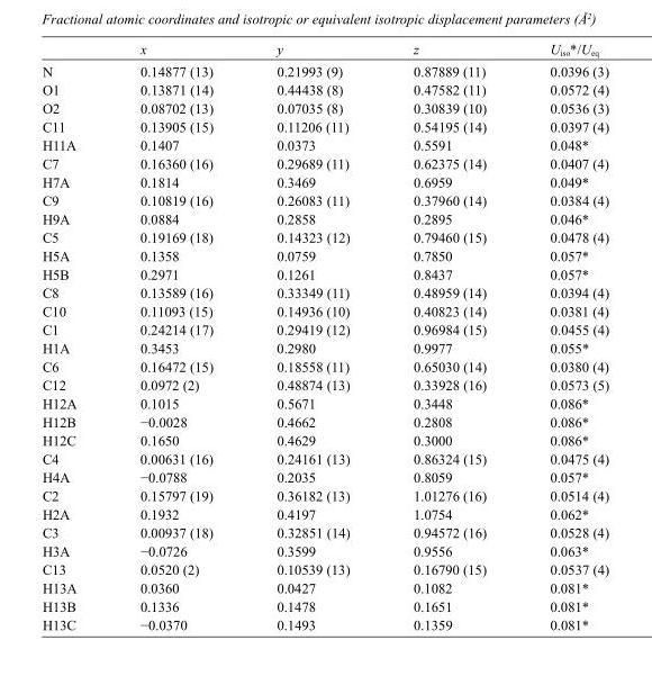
<table><thead><tr><td></td><td>x</td><td>y</td><td>z</td><td>U<sub>iso</sub>*/U<sub>eq</sub></td></tr></thead><tbody><tr><td>N</td><td>0.14877 (13)</td><td>0.21993 (9)</td><td>0.87889 (11)</td><td>0.0396 (3)</td></tr><tr><td>O1</td><td>0.13871 (14)</td><td>0.44438 (8)</td><td>0.47582 (11)</td><td>0.0572 (4)</td></tr><tr><td>O2</td><td>0.08702 (13)</td><td>0.07035 (8)</td><td>0.30839 (10)</td><td>0.0536 (3)</td></tr><tr><td>C11</td><td>0.13905 (15)</td><td>0.11206 (11)</td><td>0.54195 (14)</td><td>0.0397 (4)</td></tr><tr><td>H11A</td><td>0.1407</td><td>0.0373</td><td>0.5591</td><td>0.048*</td></tr><tr><td>C7</td><td>0.16360 (16)</td><td>0.29689 (11)</td><td>0.62375 (14)</td><td>0.0407 (4)</td></tr><tr><td>H7A</td><td>0.1814</td><td>0.3469</td><td>0.6959</td><td>0.049*</td></tr><tr><td>C9</td><td>0.10819 (16)</td><td>0.26083 (11)</td><td>0.37960 (14)</td><td>0.0384 (4)</td></tr><tr><td>H9A</td><td>0.0884</td><td>0.2858</td><td>0.2895</td><td>0.046*</td></tr><tr><td>C5</td><td>0.19169 (18)</td><td>0.14323 (12)</td><td>0.79460 (15)</td><td>0.0478 (4)</td></tr><tr><td>H5A</td><td>0.1358</td><td>0.0759</td><td>0.7850</td><td>0.057*</td></tr><tr><td>H5B</td><td>0.2971</td><td>0.1261</td><td>0.8437</td><td>0.057*</td></tr><tr><td>C8</td><td>0.13589 (16)</td><td>0.33349 (11)</td><td>0.48959 (14)</td><td>0.0394 (4)</td></tr><tr><td>C10</td><td>0.11093 (15)</td><td>0.14936 (10)</td><td>0.40823 (14)</td><td>0.0381 (4)</td></tr><tr><td>C1</td><td>0.24214 (17)</td><td>0.29419 (12)</td><td>0.96984 (15)</td><td>0.0455 (4)</td></tr><tr><td>H1A</td><td>0.3453</td><td>0.2980</td><td>0.9977</td><td>0.055*</td></tr><tr><td>C6</td><td>0.16472 (15)</td><td>0.18558 (11)</td><td>0.65030 (14)</td><td>0.0380 (4)</td></tr><tr><td>C12</td><td>0.0972 (2)</td><td>0.48874 (13)</td><td>0.33928 (16)</td><td>0.0573 (5)</td></tr><tr><td>H12A</td><td>0.1015</td><td>0.5671</td><td>0.3448</td><td>0.086*</td></tr><tr><td>H12B</td><td>−0.0028</td><td>0.4662</td><td>0.2808</td><td>0.086*</td></tr><tr><td>H12C</td><td>0.1650</td><td>0.4629</td><td>0.3000</td><td>0.086*</td></tr><tr><td>C4</td><td>0.00631 (16)</td><td>0.24161 (13)</td><td>0.86324 (15)</td><td>0.0475 (4)</td></tr><tr><td>H4A</td><td>−0.0788</td><td>0.2035</td><td>0.8059</td><td>0.057*</td></tr><tr><td>C2</td><td>0.15797 (19)</td><td>0.36182 (13)</td><td>1.01276 (16)</td><td>0.0514 (4)</td></tr><tr><td>H2A</td><td>0.1932</td><td>0.4197</td><td>1.0754</td><td>0.062*</td></tr><tr><td>C3</td><td>0.00937 (18)</td><td>0.32851 (14)</td><td>0.94572 (16)</td><td>0.0528 (4)</td></tr><tr><td>H3A</td><td>−0.0726</td><td>0.3599</td><td>0.9556</td><td>0.063*</td></tr><tr><td>C13</td><td>0.0520 (2)</td><td>0.10539 (13)</td><td>0.16790 (15)</td><td>0.0537 (4)</td></tr><tr><td>H13A</td><td>0.0360</td><td>0.0427</td><td>0.1082</td><td>0.081*</td></tr><tr><td>H13B</td><td>0.1336</td><td>0.1478</td><td>0.1651</td><td>0.081*</td></tr><tr><td>H13C</td><td>−0.0370</td><td>0.1493</td><td>0.1359</td><td>0.081*</td></tr></tbody></table>